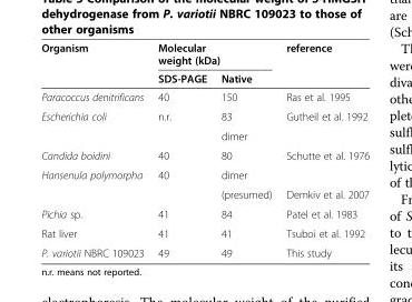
<table><thead><tr><td rowspan="2">Organism</td><td colspan="2">Molecular weight (kDa)</td><td rowspan="2">reference</td></tr><tr><td>SDS-PAGE</td><td>Native</td></tr></thead><tbody><tr><td>Paracoccus denitrificans</td><td>40</td><td>150</td><td>Ras et al. 1995</td></tr><tr><td rowspan="2">Escherichia coli</td><td>n.r.</td><td>83</td><td>Gutheil et al. 1992</td></tr><tr><td></td><td>dimer</td><td></td></tr><tr><td>Candida boidini</td><td>40</td><td>80</td><td>Schutte et al. 1976</td></tr><tr><td rowspan="2">Hansenula polymorpha</td><td>40</td><td>dimer</td><td></td></tr><tr><td></td><td>(presumed)</td><td>Demkiv et al. 2007</td></tr><tr><td>Pichia sp.</td><td>41</td><td>84</td><td>Patel et al. 1983</td></tr><tr><td>Rat liver</td><td>41</td><td>41</td><td>Tsuboi et al. 1992</td></tr><tr><td>P. variotii NBRC 109023</td><td>49</td><td>49</td><td>This study</td></tr></tbody></table>